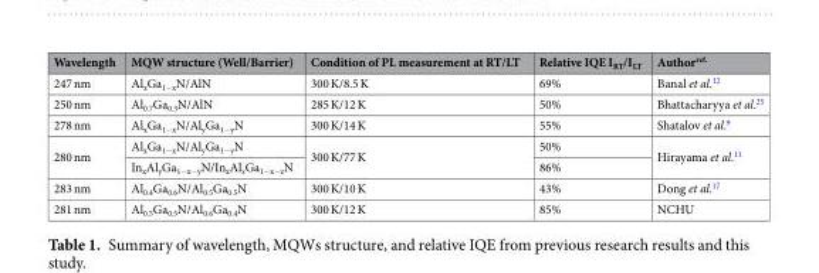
<table><thead><tr><td>Wavelength</td><td>MQW structure (Well/Barrier)</td><td>Condition of PL measurement at RT/LT</td><td>Relative IQE I<sub>RT</sub>/I<sub>LT</sub></td><td>Author<sup>ref.</sup></td></tr></thead><tbody><tr><td>247 nm</td><td>Al<sub>x</sub>Ga<sub>1−x</sub>N/AlN</td><td>300 K/8.5 K</td><td>69%</td><td>Banal et al.<sup>12</sup></td></tr><tr><td>250 nm</td><td>Al<sub>0.7</sub>Ga<sub>0.3</sub>N/AlN</td><td>285 K/12 K</td><td>50%</td><td>Bhattacharyya et al.<sup>25</sup></td></tr><tr><td>278 nm</td><td>Al<sub>x</sub>Ga<sub>1−x</sub>N/Al<sub>y</sub>Ga<sub>1−y</sub>N</td><td>300 K/14 K</td><td>55%</td><td>Shatalov et al.<sup>9</sup></td></tr><tr><td rowspan="2">280 nm</td><td>Al<sub>x</sub>Ga<sub>1−x</sub>N/Al<sub>y</sub>Ga<sub>1−y</sub>N</td><td rowspan="2">300 K/77 K</td><td>50%</td><td rowspan="2">Hirayama et al.<sup>11</sup></td></tr><tr><td>In<sub>x</sub>Al<sub>y</sub>Ga<sub>1−x−y</sub>N/In<sub>x</sub>Al<sub>z</sub>Ga<sub>1−x−z</sub>N</td><td>86%</td></tr><tr><td>283 nm</td><td>Al<sub>0.4</sub>Ga<sub>0.6</sub>N/Al<sub>0.5</sub>Ga<sub>0.5</sub>N</td><td>300 K/10 K</td><td>43%</td><td>Dong et al.<sup>17</sup></td></tr><tr><td>281 nm</td><td>Al<sub>0.5</sub>Ga<sub>0.5</sub>N/Al<sub>0.6</sub>Ga<sub>0.4</sub>N</td><td>300 K/12 K</td><td>85%</td><td>NCHU</td></tr></tbody></table>